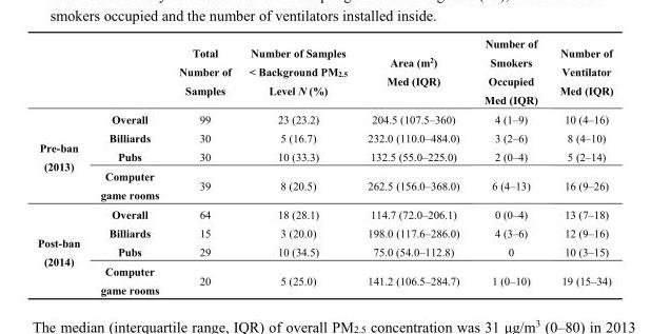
<table><thead><tr><td></td><td></td><td>Total Number of Samples</td><td>Number of Samples &lt; Background PM<sub>2.5</sub> Level N (%)</td><td>Area (m<sup>2</sup>) Med (IQR)</td><td>Number of Smokers Occupied Med (IQR)</td><td>Number of Ventilator Med (IQR)</td></tr></thead><tbody><tr><td rowspan="4">Pre-ban (2013)</td><td>Overall</td><td>99</td><td>23 (23.2)</td><td>204.5 (107.5–360)</td><td>4 (1–9)</td><td>10 (4–16)</td></tr><tr><td>Billiards</td><td>30</td><td>5 (16.7)</td><td>232.0 (110.0–484.0)</td><td>3 (2–6)</td><td>8 (4–10)</td></tr><tr><td>Pubs</td><td>30</td><td>10 (33.3)</td><td>132.5 (55.0–225.0)</td><td>2 (0–4)</td><td>5 (2–14)</td></tr><tr><td>Computer game rooms</td><td>39</td><td>8 (20.5)</td><td>262.5 (156.0–368.0)</td><td>6 (4–13)</td><td>16 (9–26)</td></tr><tr><td rowspan="4">Post-ban (2014)</td><td>Overall</td><td>64</td><td>18 (28.1)</td><td>114.7 (72.0–206.1)</td><td>0 (0–4)</td><td>13 (7–18)</td></tr><tr><td>Billiards</td><td>15</td><td>3 (20.0)</td><td>198.0 (117.6–286.0)</td><td>4 (3–6)</td><td>12 (9–16)</td></tr><tr><td>Pubs</td><td>29</td><td>10 (34.5)</td><td>75.0 (54.0–112.8)</td><td>0</td><td>10 (3–15)</td></tr><tr><td>Computer game rooms</td><td>20</td><td>5 (25.0)</td><td>141.2 (106.5–284.7)</td><td>1 (0–10)</td><td>19 (15–34)</td></tr></tbody></table>